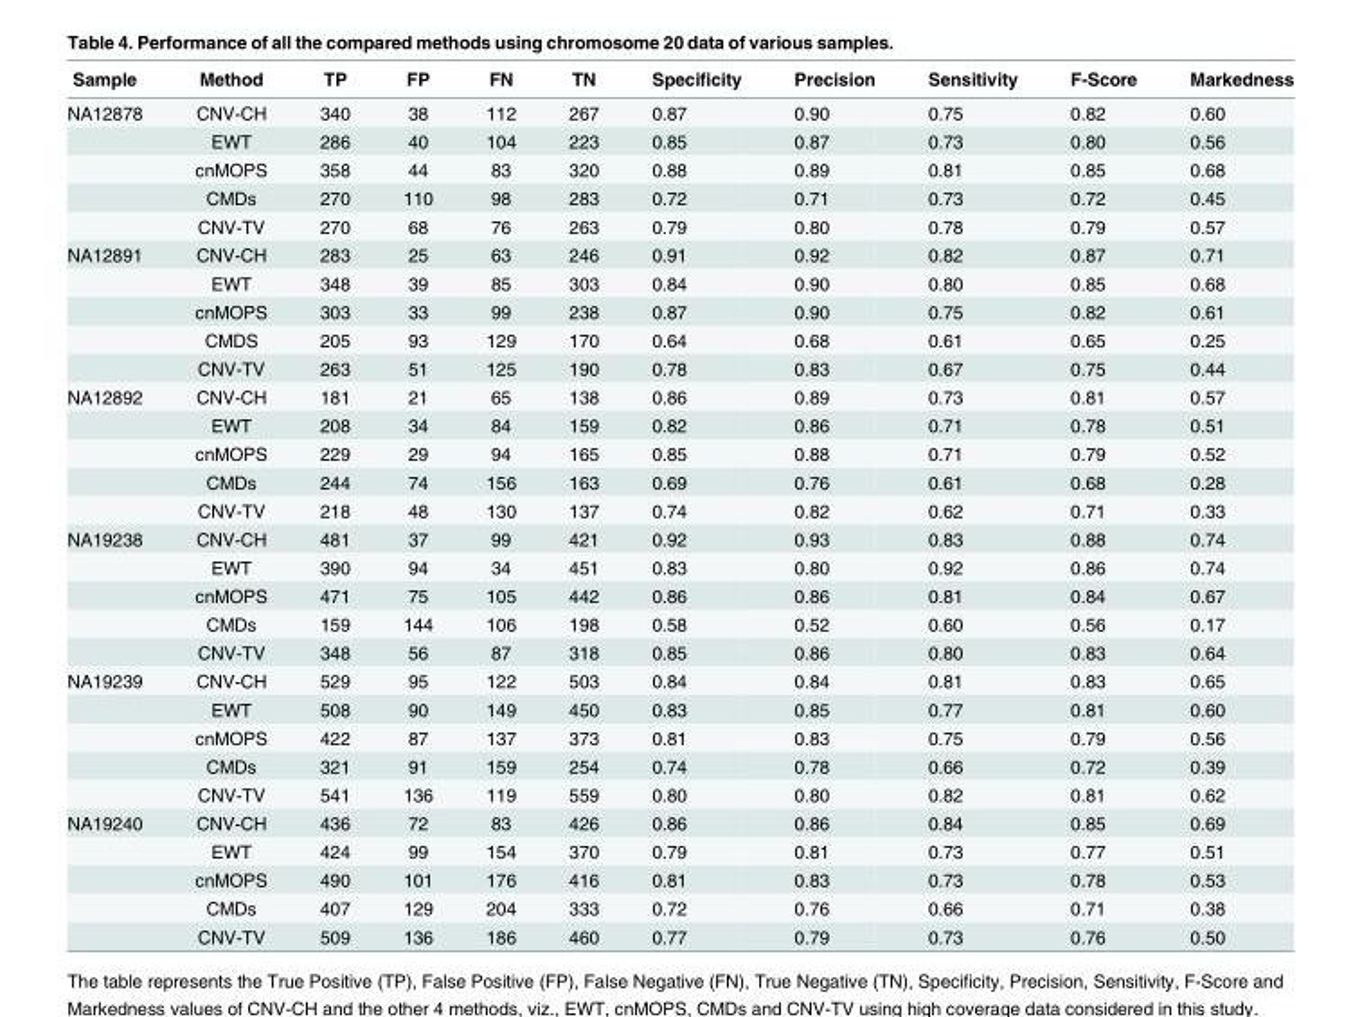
<table><thead><tr><td>Sample</td><td>Method</td><td>TP</td><td>FP</td><td>FN</td><td>TN</td><td>Specificity</td><td>Precision</td><td>Sensitivity</td><td>F-Score</td><td>Markedness</td></tr></thead><tbody><tr><td rowspan="5">NA12878</td><td>CNV-CH</td><td>340</td><td>38</td><td>112</td><td>267</td><td>0.87</td><td>0.90</td><td>0.75</td><td>0.82</td><td>0.60</td></tr><tr><td>EWT</td><td>286</td><td>40</td><td>104</td><td>223</td><td>0.85</td><td>0.87</td><td>0.73</td><td>0.80</td><td>0.56</td></tr><tr><td>cnMOPS</td><td>358</td><td>44</td><td>83</td><td>320</td><td>0.88</td><td>0.89</td><td>0.81</td><td>0.85</td><td>0.68</td></tr><tr><td>CMDs</td><td>270</td><td>110</td><td>98</td><td>283</td><td>0.72</td><td>0.71</td><td>0.73</td><td>0.72</td><td>0.45</td></tr><tr><td>CNV-TV</td><td>270</td><td>68</td><td>76</td><td>263</td><td>0.79</td><td>0.80</td><td>0.78</td><td>0.79</td><td>0.57</td></tr><tr><td rowspan="5">NA12891</td><td>CNV-CH</td><td>283</td><td>25</td><td>63</td><td>246</td><td>0.91</td><td>0.92</td><td>0.82</td><td>0.87</td><td>0.71</td></tr><tr><td>EWT</td><td>348</td><td>39</td><td>85</td><td>303</td><td>0.84</td><td>0.90</td><td>0.80</td><td>0.85</td><td>0.68</td></tr><tr><td>cnMOPS</td><td>303</td><td>33</td><td>99</td><td>238</td><td>0.87</td><td>0.90</td><td>0.75</td><td>0.82</td><td>0.61</td></tr><tr><td>CMDS</td><td>205</td><td>93</td><td>129</td><td>170</td><td>0.64</td><td>0.68</td><td>0.61</td><td>0.65</td><td>0.25</td></tr><tr><td>CNV-TV</td><td>263</td><td>51</td><td>125</td><td>190</td><td>0.78</td><td>0.83</td><td>0.67</td><td>0.75</td><td>0.44</td></tr><tr><td rowspan="5">NA12892</td><td>CNV-CH</td><td>181</td><td>21</td><td>65</td><td>138</td><td>0.86</td><td>0.89</td><td>0.73</td><td>0.81</td><td>0.57</td></tr><tr><td>EWT</td><td>208</td><td>34</td><td>84</td><td>159</td><td>0.82</td><td>0.86</td><td>0.71</td><td>0.78</td><td>0.51</td></tr><tr><td>cnMOPS</td><td>229</td><td>29</td><td>94</td><td>165</td><td>0.85</td><td>0.88</td><td>0.71</td><td>0.79</td><td>0.52</td></tr><tr><td>CMDs</td><td>244</td><td>74</td><td>156</td><td>163</td><td>0.69</td><td>0.76</td><td>0.61</td><td>0.68</td><td>0.28</td></tr><tr><td>CNV-TV</td><td>218</td><td>48</td><td>130</td><td>137</td><td>0.74</td><td>0.82</td><td>0.62</td><td>0.71</td><td>0.33</td></tr><tr><td rowspan="5">NA19238</td><td>CNV-CH</td><td>481</td><td>37</td><td>99</td><td>421</td><td>0.92</td><td>0.93</td><td>0.83</td><td>0.88</td><td>0.74</td></tr><tr><td>EWT</td><td>390</td><td>94</td><td>34</td><td>451</td><td>0.83</td><td>0.80</td><td>0.92</td><td>0.86</td><td>0.74</td></tr><tr><td>cnMOPS</td><td>471</td><td>75</td><td>105</td><td>442</td><td>0.86</td><td>0.86</td><td>0.81</td><td>0.84</td><td>0.67</td></tr><tr><td>CMDs</td><td>159</td><td>144</td><td>106</td><td>198</td><td>0.58</td><td>0.52</td><td>0.60</td><td>0.56</td><td>0.17</td></tr><tr><td>CNV-TV</td><td>348</td><td>56</td><td>87</td><td>318</td><td>0.85</td><td>0.86</td><td>0.80</td><td>0.83</td><td>0.64</td></tr><tr><td rowspan="5">NA19239</td><td>CNV-CH</td><td>529</td><td>95</td><td>122</td><td>503</td><td>0.84</td><td>0.84</td><td>0.81</td><td>0.83</td><td>0.65</td></tr><tr><td>EWT</td><td>508</td><td>90</td><td>149</td><td>450</td><td>0.83</td><td>0.85</td><td>0.77</td><td>0.81</td><td>0.60</td></tr><tr><td>cnMOPS</td><td>422</td><td>87</td><td>137</td><td>373</td><td>0.81</td><td>0.83</td><td>0.75</td><td>0.79</td><td>0.56</td></tr><tr><td>CMDs</td><td>321</td><td>91</td><td>159</td><td>254</td><td>0.74</td><td>0.78</td><td>0.66</td><td>0.72</td><td>0.39</td></tr><tr><td>CNV-TV</td><td>541</td><td>136</td><td>119</td><td>559</td><td>0.80</td><td>0.80</td><td>0.82</td><td>0.81</td><td>0.62</td></tr><tr><td rowspan="5">NA19240</td><td>CNV-CH</td><td>436</td><td>72</td><td>83</td><td>426</td><td>0.86</td><td>0.86</td><td>0.84</td><td>0.85</td><td>0.69</td></tr><tr><td>EWT</td><td>424</td><td>99</td><td>154</td><td>370</td><td>0.79</td><td>0.81</td><td>0.73</td><td>0.77</td><td>0.51</td></tr><tr><td>cnMOPS</td><td>490</td><td>101</td><td>176</td><td>416</td><td>0.81</td><td>0.83</td><td>0.73</td><td>0.78</td><td>0.53</td></tr><tr><td>CMDs</td><td>407</td><td>129</td><td>204</td><td>333</td><td>0.72</td><td>0.76</td><td>0.66</td><td>0.71</td><td>0.38</td></tr><tr><td>CNV-TV</td><td>509</td><td>136</td><td>186</td><td>460</td><td>0.77</td><td>0.79</td><td>0.73</td><td>0.76</td><td>0.50</td></tr></tbody></table>